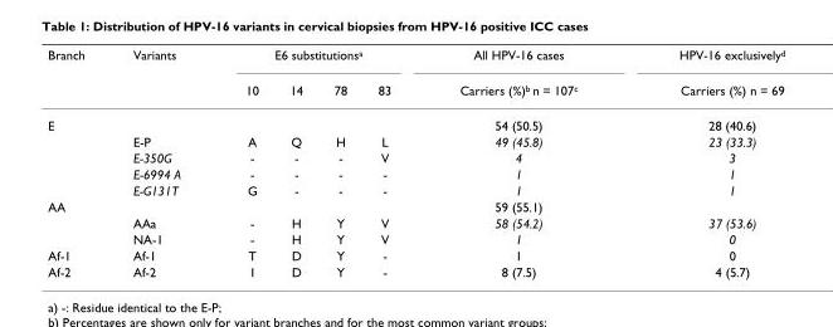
<table><thead><tr><td rowspan="2">Branch</td><td rowspan="2">Variants</td><td colspan="4">E6 substitutions<sup>a</sup></td><td rowspan="2">All HPV-16 cases Carriers (%)<sup>b</sup> n = 107<sup>c</sup></td><td rowspan="2">HPV-16 exclusively<sup>d</sup> Carriers (%) n = 69</td></tr><tr><td>10</td><td>14</td><td>78</td><td>83</td></tr></thead><tbody><tr><td rowspan="5">E</td><td></td><td></td><td></td><td></td><td></td><td>54 (50.5)</td><td>28 (40.6)</td></tr><tr><td>E-P</td><td>A</td><td>Q</td><td>H</td><td>L</td><td>49 (45.8)</td><td>23 (33.3)</td></tr><tr><td>E-350G</td><td>-</td><td>-</td><td>-</td><td>V</td><td>4</td><td>3</td></tr><tr><td>E-6994 A</td><td>-</td><td>-</td><td>-</td><td>-</td><td>1</td><td>1</td></tr><tr><td>E-G131T</td><td>G</td><td>-</td><td>-</td><td>-</td><td>1</td><td>1</td></tr><tr><td rowspan="3">AA</td><td></td><td></td><td></td><td></td><td></td><td>59 (55.1)</td><td></td></tr><tr><td>AAa</td><td>-</td><td>H</td><td>Y</td><td>V</td><td>58 (54.2)</td><td>37 (53.6)</td></tr><tr><td>NA-1</td><td>-</td><td>H</td><td>Y</td><td>V</td><td>1</td><td>0</td></tr><tr><td>Af-1</td><td>Af-1</td><td>T</td><td>D</td><td>Y</td><td>-</td><td>1</td><td>0</td></tr><tr><td>Af-2</td><td>Af-2</td><td>I</td><td>D</td><td>Y</td><td>-</td><td>8 (7.5)</td><td>4 (5.7)</td></tr></tbody></table>